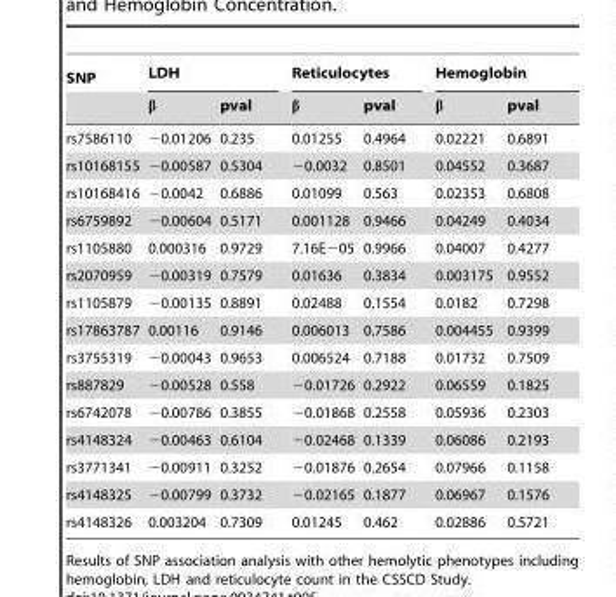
<table><thead><tr><td rowspan="2">SNP</td><td colspan="2">LDH</td><td colspan="2">Reticulocytes</td><td colspan="2">Hemoglobin</td></tr><tr><td>β</td><td>pval</td><td>β</td><td>pval</td><td>β</td><td>pval</td></tr></thead><tbody><tr><td>rs7586110</td><td>−0.01206</td><td>0.235</td><td>0.01255</td><td>0.4964</td><td>0.02221</td><td>0.6891</td></tr><tr><td>rs10168155</td><td>−0.00587</td><td>0.5304</td><td>−0.0032</td><td>0.8501</td><td>0.04552</td><td>0.3687</td></tr><tr><td>rs10168416</td><td>−0.0042</td><td>0.6886</td><td>0.01099</td><td>0.563</td><td>0.02353</td><td>0.6808</td></tr><tr><td>rs6759892</td><td>−0.00604</td><td>0.5171</td><td>0.001128</td><td>0.9466</td><td>0.04249</td><td>0.4034</td></tr><tr><td>rs1105880</td><td>0.000316</td><td>0.9729</td><td>7.16E−05</td><td>0.9966</td><td>0.04007</td><td>0.4277</td></tr><tr><td>rs2070959</td><td>−0.00319</td><td>0.7579</td><td>0.01636</td><td>0.3834</td><td>0.003175</td><td>0.9552</td></tr><tr><td>rs1105879</td><td>−0.00135</td><td>0.8891</td><td>0.02488</td><td>0.1554</td><td>0.0182</td><td>0.7298</td></tr><tr><td>rs17863787</td><td>0.00116</td><td>0.9146</td><td>0.006013</td><td>0.7586</td><td>0.004455</td><td>0.9399</td></tr><tr><td>rs3755319</td><td>−0.00043</td><td>0.9653</td><td>0.006524</td><td>0.7188</td><td>0.01732</td><td>0.7509</td></tr><tr><td>rs887829</td><td>−0.00528</td><td>0.558</td><td>−0.01726</td><td>0.2922</td><td>0.06559</td><td>0.1825</td></tr><tr><td>rs6742078</td><td>−0.00786</td><td>0.3855</td><td>−0.01868</td><td>0.2558</td><td>0.05936</td><td>0.2303</td></tr><tr><td>rs4148324</td><td>−0.00463</td><td>0.6104</td><td>−0.02468</td><td>0.1339</td><td>0.06086</td><td>0.2193</td></tr><tr><td>rs3771341</td><td>−0.00911</td><td>0.3252</td><td>−0.01876</td><td>0.2654</td><td>0.07966</td><td>0.1158</td></tr><tr><td>rs4148325</td><td>−0.00799</td><td>0.3732</td><td>−0.02165</td><td>0.1877</td><td>0.06967</td><td>0.1576</td></tr><tr><td>rs4148326</td><td>0.003204</td><td>0.7309</td><td>0.01245</td><td>0.462</td><td>0.02886</td><td>0.5721</td></tr></tbody></table>